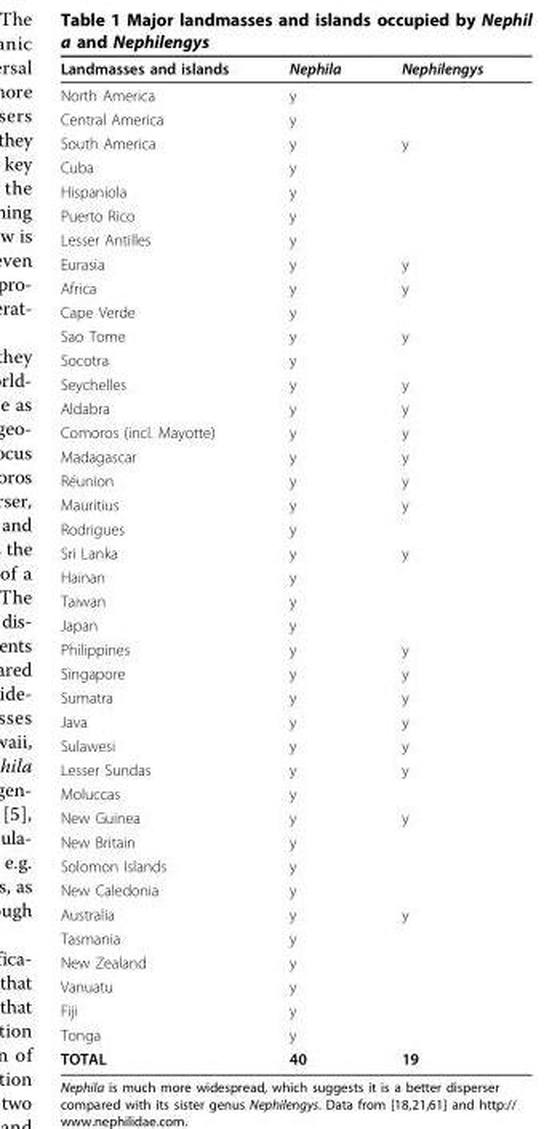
<table><thead><tr><td>Landmasses and islands</td><td>Nephila</td><td>Nephilengys</td></tr></thead><tbody><tr><td>North America</td><td>y</td><td></td></tr><tr><td>Central America</td><td>y</td><td></td></tr><tr><td>South America</td><td>y</td><td>y</td></tr><tr><td>Cuba</td><td>y</td><td></td></tr><tr><td>Hispaniola</td><td>y</td><td></td></tr><tr><td>Puerto Rico</td><td>y</td><td></td></tr><tr><td>Lesser Antilles</td><td>y</td><td></td></tr><tr><td>Eurasia</td><td>y</td><td>y</td></tr><tr><td>Africa</td><td>y</td><td>y</td></tr><tr><td>Cape Verde</td><td>y</td><td></td></tr><tr><td>Sao Tome</td><td>y</td><td>y</td></tr><tr><td>Socotra</td><td>y</td><td></td></tr><tr><td>Seychelles</td><td>y</td><td>y</td></tr><tr><td>Aldabra</td><td>y</td><td>y</td></tr><tr><td>Comoros (incl. Mayotte)</td><td>y</td><td>y</td></tr><tr><td>Madagascar</td><td>y</td><td>y</td></tr><tr><td>Réunion</td><td>y</td><td>y</td></tr><tr><td>Mauritius</td><td>y</td><td>y</td></tr><tr><td>Rodrigues</td><td>y</td><td></td></tr><tr><td>Sri Lanka</td><td>y</td><td>y</td></tr><tr><td>Hainan</td><td>y</td><td></td></tr><tr><td>Taiwan</td><td>y</td><td></td></tr><tr><td>Japan</td><td>y</td><td></td></tr><tr><td>Philippines</td><td>y</td><td>y</td></tr><tr><td>Singapore</td><td>y</td><td>y</td></tr><tr><td>Sumatra</td><td>y</td><td>y</td></tr><tr><td>Java</td><td>y</td><td>y</td></tr><tr><td>Sulawesi</td><td>y</td><td>y</td></tr><tr><td>Lesser Sundas</td><td>y</td><td>y</td></tr><tr><td>Moluccas</td><td>y</td><td></td></tr><tr><td>New Guinea</td><td>y</td><td>y</td></tr><tr><td>New Britain</td><td>y</td><td></td></tr><tr><td>Solomon Islands</td><td>y</td><td></td></tr><tr><td>New Caledonia</td><td>y</td><td></td></tr><tr><td>Australia</td><td>y</td><td>y</td></tr><tr><td>Tasmania</td><td>y</td><td></td></tr><tr><td>New Zealand</td><td>y</td><td></td></tr><tr><td>Vanuatu</td><td>y</td><td></td></tr><tr><td>Fiji</td><td>y</td><td></td></tr><tr><td>Tonga</td><td>y</td><td></td></tr><tr><td>TOTAL</td><td>40</td><td>19</td></tr></tbody></table>